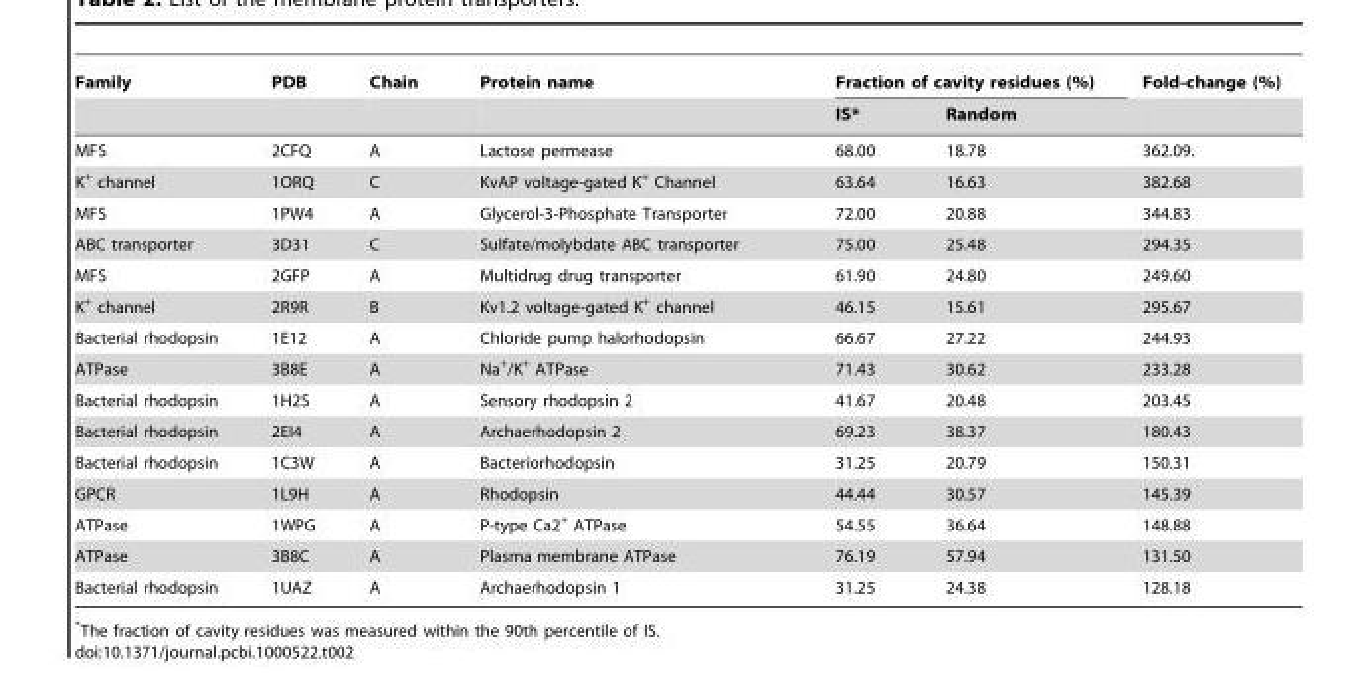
<table><thead><tr><td rowspan="2">Family</td><td rowspan="2">PDB</td><td rowspan="2">Chain</td><td rowspan="2">Protein name</td><td colspan="2">Fraction of cavity residues (%)</td><td rowspan="2">Fold-change (%)</td></tr><tr><td>IS*</td><td>Random</td></tr></thead><tbody><tr><td>MFS</td><td>2CFQ</td><td>A</td><td>Lactose permease</td><td>68.00</td><td>18.78</td><td>362.09.</td></tr><tr><td>K<sup>+</sup> channel</td><td>1ORQ</td><td>C</td><td>KvAP voltage-gated K<sup>+</sup> Channel</td><td>63.64</td><td>16.63</td><td>382.68</td></tr><tr><td>MFS</td><td>1PW4</td><td>A</td><td>Glycerol-3-Phosphate Transporter</td><td>72.00</td><td>20.88</td><td>344.83</td></tr><tr><td>ABC transporter</td><td>3D31</td><td>C</td><td>Sulfate/molybdate ABC transporter</td><td>75.00</td><td>25.48</td><td>294.35</td></tr><tr><td>MFS</td><td>2GFP</td><td>A</td><td>Multidrug drug transporter</td><td>61.90</td><td>24.80</td><td>249.60</td></tr><tr><td>K<sup>+</sup> channel</td><td>2R9R</td><td>B</td><td>Kv1.2 voltage-gated K<sup>+</sup> channel</td><td>46.15</td><td>15.61</td><td>295.67</td></tr><tr><td>Bacterial rhodopsin</td><td>1E12</td><td>A</td><td>Chloride pump halorhodopsin</td><td>66.67</td><td>27.22</td><td>244.93</td></tr><tr><td>ATPase</td><td>3B8E</td><td>A</td><td>Na<sup>+</sup>/K<sup>+</sup> ATPase</td><td>71.43</td><td>30.62</td><td>233.28</td></tr><tr><td>Bacterial rhodopsin</td><td>1H2S</td><td>A</td><td>Sensory rhodopsin 2</td><td>41.67</td><td>20.48</td><td>203.45</td></tr><tr><td>Bacterial rhodopsin</td><td>2EI4</td><td>A</td><td>Archaerhodopsin 2</td><td>69.23</td><td>38.37</td><td>180.43</td></tr><tr><td>Bacterial rhodopsin</td><td>1C3W</td><td>A</td><td>Bacteriorhodopsin</td><td>31.25</td><td>20.79</td><td>150.31</td></tr><tr><td>GPCR</td><td>1L9H</td><td>A</td><td>Rhodopsin</td><td>44.44</td><td>30.57</td><td>145.39</td></tr><tr><td>ATPase</td><td>1WPG</td><td>A</td><td>P-type Ca2<sup>+</sup> ATPase</td><td>54.55</td><td>36.64</td><td>148.88</td></tr><tr><td>ATPase</td><td>3B8C</td><td>A</td><td>Plasma membrane ATPase</td><td>76.19</td><td>57.94</td><td>131.50</td></tr><tr><td>Bacterial rhodopsin</td><td>1UAZ</td><td>A</td><td>Archaerhodopsin 1</td><td>31.25</td><td>24.38</td><td>128.18</td></tr></tbody></table>